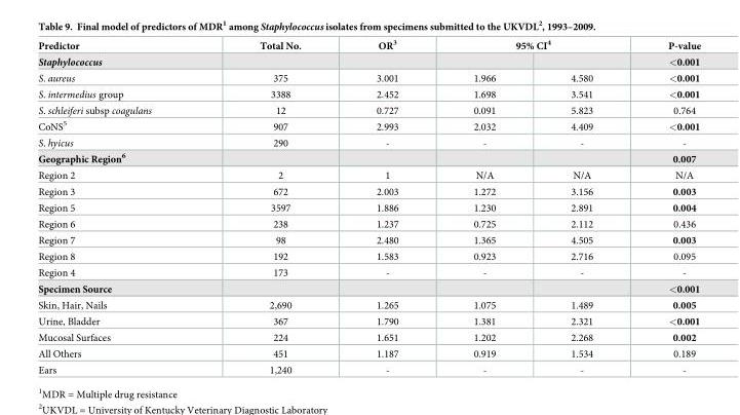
<table><thead><tr><td rowspan="2">Predictor Staphylococcus</td><td rowspan="2">Total No.</td><td rowspan="2">OR<sup>3</sup></td><td colspan="2">95% CI<sup>4</sup></td><td rowspan="2">P-value &lt;0.001</td></tr><tr><td></td><td></td></tr></thead><tbody><tr><td>S. aureus</td><td>375</td><td>3.001</td><td>1.966</td><td>4.580</td><td>&lt;0.001</td></tr><tr><td>S. intermedius group</td><td>3388</td><td>2.452</td><td>1.698</td><td>3.541</td><td>&lt;0.001</td></tr><tr><td>S. schleiferi subsp coagulans</td><td>12</td><td>0.727</td><td>0.091</td><td>5.823</td><td>0.764</td></tr><tr><td>CoNS<sup>5</sup></td><td>907</td><td>2.993</td><td>2.032</td><td>4.409</td><td>&lt;0.001</td></tr><tr><td>S. hyicus</td><td>290</td><td>-</td><td>-</td><td>-</td><td>-</td></tr><tr><td>Geographic Region<sup>6</sup></td><td></td><td></td><td></td><td></td><td>0.007</td></tr><tr><td>Region 2</td><td>2</td><td>1</td><td>N/A</td><td>N/A</td><td>N/A</td></tr><tr><td>Region 3</td><td>672</td><td>2.003</td><td>1.272</td><td>3.156</td><td>0.003</td></tr><tr><td>Region 5</td><td>3597</td><td>1.886</td><td>1.230</td><td>2.891</td><td>0.004</td></tr><tr><td>Region 6</td><td>238</td><td>1.237</td><td>0.725</td><td>2.112</td><td>0.436</td></tr><tr><td>Region 7</td><td>98</td><td>2.480</td><td>1.365</td><td>4.505</td><td>0.003</td></tr><tr><td>Region 8</td><td>192</td><td>1.583</td><td>0.923</td><td>2.716</td><td>0.095</td></tr><tr><td>Region 4</td><td>173</td><td>-</td><td>-</td><td>-</td><td>-</td></tr><tr><td>Specimen Source</td><td></td><td></td><td></td><td></td><td>&lt;0.001</td></tr><tr><td>Skin, Hair, Nails</td><td>2,690</td><td>1.265</td><td>1.075</td><td>1.489</td><td>0.005</td></tr><tr><td>Urine, Bladder</td><td>367</td><td>1.790</td><td>1.381</td><td>2.321</td><td>&lt;0.001</td></tr><tr><td>Mucosal Surfaces</td><td>224</td><td>1.651</td><td>1.202</td><td>2.268</td><td>0.002</td></tr><tr><td>All Others</td><td>451</td><td>1.187</td><td>0.919</td><td>1.534</td><td>0.189</td></tr><tr><td>Ears</td><td>1,240</td><td>-</td><td>-</td><td>-</td><td>-</td></tr></tbody></table>